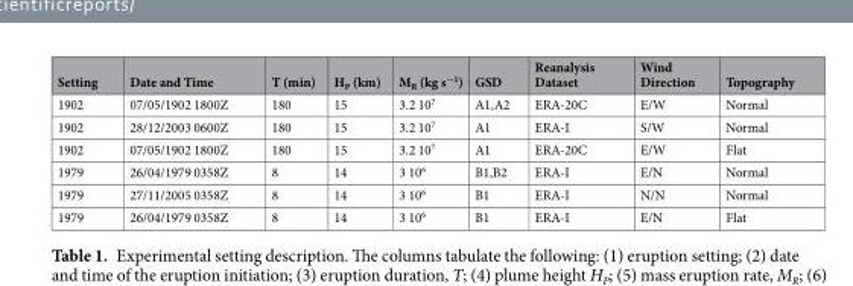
<table><thead><tr><td>Setting</td><td>Date and Time</td><td>T (min)</td><td>H<sub>P</sub> (km)</td><td>M<sub>R</sub> (kg s<sup>−1</sup>)</td><td>GSD</td><td>Reanalysis Dataset</td><td>Wind Direction</td><td>Topography</td></tr></thead><tbody><tr><td>1902</td><td>07/05/1902 1800Z</td><td>180</td><td>15</td><td>3.2 10<sup>7</sup></td><td>A1,A2</td><td>ERA-20C</td><td>E/W</td><td>Normal</td></tr><tr><td>1902</td><td>28/12/2003 0600Z</td><td>180</td><td>15</td><td>3.2 10<sup>7</sup></td><td>A1</td><td>ERA-I</td><td>S/W</td><td>Normal</td></tr><tr><td>1902</td><td>07/05/1902 1800Z</td><td>180</td><td>15</td><td>3.2 10<sup>7</sup></td><td>A1</td><td>ERA-20C</td><td>E/W</td><td>Flat</td></tr><tr><td>1979</td><td>26/04/1979 0358Z</td><td>8</td><td>14</td><td>3 10<sup>6</sup></td><td>B1,B2</td><td>ERA-I</td><td>E/N</td><td>Normal</td></tr><tr><td>1979</td><td>27/11/2005 0358Z</td><td>8</td><td>14</td><td>3 10<sup>6</sup></td><td>B1</td><td>ERA-I</td><td>N/N</td><td>Normal</td></tr><tr><td>1979</td><td>26/04/1979 0358Z</td><td>8</td><td>14</td><td>3 10<sup>6</sup></td><td>B1</td><td>ERA-I</td><td>E/N</td><td>Flat</td></tr></tbody></table>